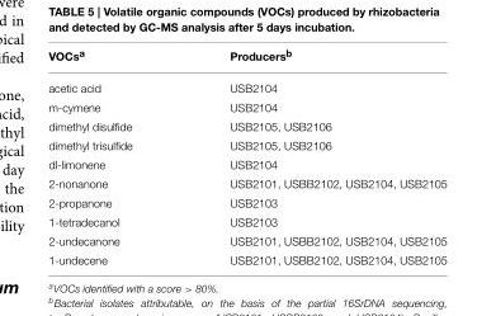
<table><thead><tr><td>VOCs<sup>a</sup></td><td>Producers<sup>b</sup></td></tr></thead><tbody><tr><td>acetic acid</td><td>USB2104</td></tr><tr><td>m-cymene</td><td>USB2104</td></tr><tr><td>dimethyl disulfide</td><td>USB2105, USB2106</td></tr><tr><td>dimethyl trisulfide</td><td>USB2105, USB2106</td></tr><tr><td>dl-limonene</td><td>USB2104</td></tr><tr><td>2-nonanone</td><td>USB2101, USBB2102, USB2104, USB2105</td></tr><tr><td>2-propanone</td><td>USB2103</td></tr><tr><td>1-tetradecanol</td><td>USB2103</td></tr><tr><td>2-undecanone</td><td>USB2101, USBB2102, USB2104, USB2105</td></tr><tr><td>1-undecene</td><td>USB2101, USBB2102, USB2104, USB2105</td></tr></tbody></table>